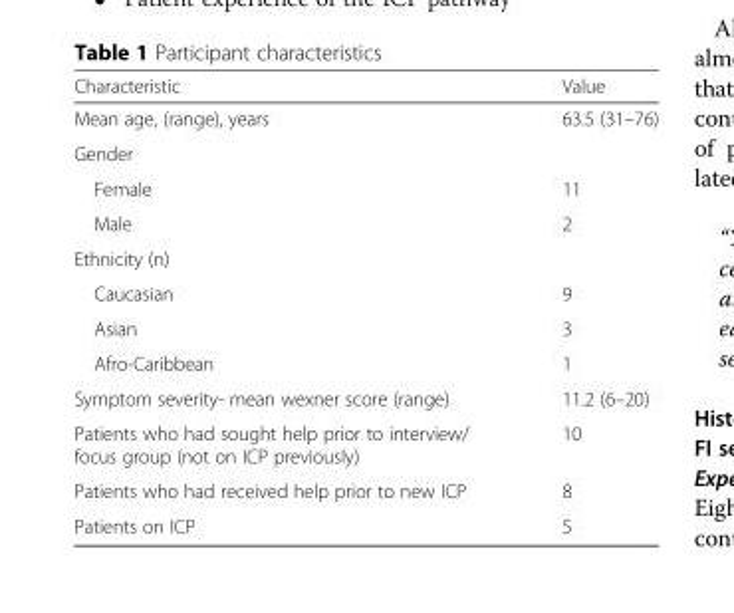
<table><thead><tr><td>Characteristic</td><td>Value</td></tr></thead><tbody><tr><td>Mean age, (range), years</td><td>63.5 (31–76)</td></tr><tr><td colspan="2">Gender</td></tr><tr><td>Female</td><td>11</td></tr><tr><td>Male</td><td>2</td></tr><tr><td colspan="2">Ethnicity (n)</td></tr><tr><td>Caucasian</td><td>9</td></tr><tr><td>Asian</td><td>3</td></tr><tr><td>Afro-Caribbean</td><td>1</td></tr><tr><td>Symptom severity- mean wexner score (range)</td><td>11.2 (6–20)</td></tr><tr><td>Patients who had sought help prior to interview/ focus group (not on ICP previously)</td><td>10</td></tr><tr><td>Patients who had received help prior to new ICP</td><td>8</td></tr><tr><td>Patients on ICP</td><td>5</td></tr></tbody></table>